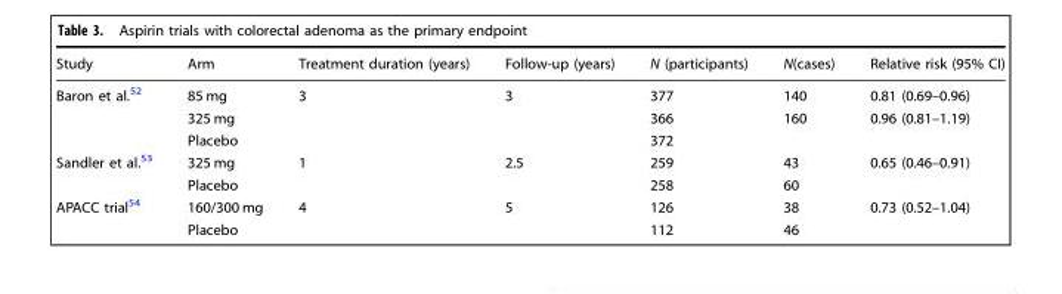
<table><thead><tr><td>Study</td><td>Arm</td><td>Treatment duration (years)</td><td>Follow-up (years)</td><td>N (participants)</td><td>N(cases)</td><td>Relative risk (95% CI)</td></tr></thead><tbody><tr><td rowspan="3">Baron et al.<sup>52</sup></td><td>85 mg</td><td rowspan="3">3</td><td rowspan="3">3</td><td>377</td><td>140</td><td>0.81 (0.69–0.96)</td></tr><tr><td>325 mg</td><td>366</td><td rowspan="2">160</td><td rowspan="2">0.96 (0.81–1.19)</td></tr><tr><td>Placebo</td><td>372</td></tr><tr><td rowspan="2">Sandler et al.<sup>53</sup></td><td>325 mg</td><td>1</td><td>2.5</td><td>259</td><td>43</td><td rowspan="2">0.65 (0.46–0.91)</td></tr><tr><td>Placebo</td><td></td><td></td><td>258</td><td>60</td></tr><tr><td rowspan="2">APACC trial<sup>54</sup></td><td>160/300 mg</td><td rowspan="2">4</td><td rowspan="2">5</td><td>126</td><td>38</td><td rowspan="2">0.73 (0.52–1.04)</td></tr><tr><td>Placebo</td><td>112</td><td>46</td></tr></tbody></table>